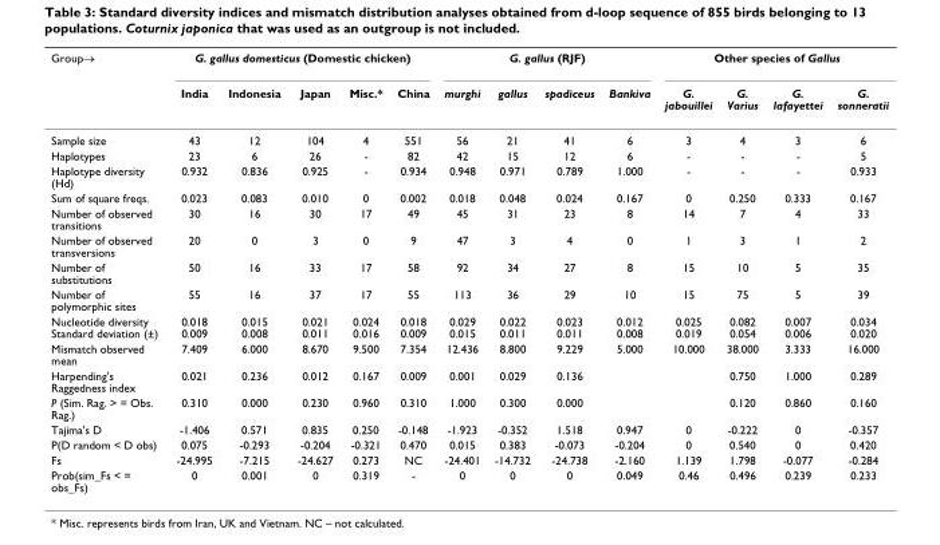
<table><thead><tr><td rowspan="2">Group→</td><td colspan="5">G. gallus domesticus (Domestic chicken)</td><td colspan="4">G. gallus (RJF)</td><td colspan="4">Other species of Gallus</td></tr><tr><td>India</td><td>Indonesia</td><td>Japan</td><td>Misc.*</td><td>China</td><td>murghi</td><td>gallus</td><td>spadiceus</td><td>Bankiva</td><td>G. jabouillei</td><td>G. Varius</td><td>G. lafayettei</td><td>G. sonneratii</td></tr></thead><tbody><tr><td>Sample size</td><td>43</td><td>12</td><td>104</td><td>4</td><td>551</td><td>56</td><td>21</td><td>41</td><td>6</td><td>3</td><td>4</td><td>3</td><td>6</td></tr><tr><td>Haplotypes</td><td>23</td><td>6</td><td>26</td><td>-</td><td>82</td><td>42</td><td>15</td><td>12</td><td>6</td><td>-</td><td>-</td><td>-</td><td>5</td></tr><tr><td>Haplotype diversity (Hd)</td><td>0.932</td><td>0.836</td><td>0.925</td><td>-</td><td>0.934</td><td>0.948</td><td>0.971</td><td>0.789</td><td>1.000</td><td>-</td><td>-</td><td>-</td><td>0.933</td></tr><tr><td>Sum of square freqs.</td><td>0.023</td><td>0.083</td><td>0.010</td><td>0</td><td>0.002</td><td>0.018</td><td>0.048</td><td>0.024</td><td>0.167</td><td>0</td><td>0.250</td><td>0.333</td><td>0.167</td></tr><tr><td>Number of observed transitions</td><td>30</td><td>16</td><td>30</td><td>17</td><td>49</td><td>45</td><td>31</td><td>23</td><td>8</td><td>14</td><td>7</td><td>4</td><td>33</td></tr><tr><td>Number of observed transversions</td><td>20</td><td>0</td><td>3</td><td>0</td><td>9</td><td>47</td><td>3</td><td>4</td><td>0</td><td>1</td><td>3</td><td>1</td><td>2</td></tr><tr><td>Number of substitutions</td><td>50</td><td>16</td><td>33</td><td>17</td><td>58</td><td>92</td><td>34</td><td>27</td><td>8</td><td>15</td><td>10</td><td>5</td><td>35</td></tr><tr><td>Number of polymorphic sites</td><td>55</td><td>16</td><td>37</td><td>17</td><td>55</td><td>113</td><td>36</td><td>29</td><td>10</td><td>15</td><td>75</td><td>5</td><td>39</td></tr><tr><td>Nucleotide diversity Standard deviation (±)</td><td>0.018 0.009</td><td>0.015 0.008</td><td>0.021 0.011</td><td>0.024 0.016</td><td>0.018 0.009</td><td>0.029 0.015</td><td>0.022 0.011</td><td>0.023 0.011</td><td>0.012 0.008</td><td>0.025 0.019</td><td>0.082 0.054</td><td>0.007 0.006</td><td>0.034 0.020</td></tr><tr><td>Mismatch observed mean</td><td>7.409</td><td>6.000</td><td>8.670</td><td>9.500</td><td>7.354</td><td>12.436</td><td>8.800</td><td>9.229</td><td>5.000</td><td>10.000</td><td>38.000</td><td>3.333</td><td>16.000</td></tr><tr><td>Harpending&#x27;s Raggedness index</td><td>0.021</td><td>0.236</td><td>0.012</td><td>0.167</td><td>0.009</td><td>0.001</td><td>0.029</td><td>0.136</td><td></td><td></td><td>0.750</td><td>1.000</td><td>0.289</td></tr><tr><td>P (Sim. Rag. &gt; = Obs. Rag.)</td><td>0.310</td><td>0.000</td><td>0.230</td><td>0.960</td><td>0.310</td><td>1.000</td><td>0.300</td><td>0.000</td><td></td><td></td><td>0.120</td><td>0.860</td><td>0.160</td></tr><tr><td>Tajima&#x27;s D</td><td>-1.406</td><td>0.571</td><td>0.835</td><td>0.250</td><td>-0.148</td><td>-1.923</td><td>-0.352</td><td>1.518</td><td>0.947</td><td>0</td><td>-0.222</td><td>0</td><td>-0.357</td></tr><tr><td>P(D random &lt; D obs)</td><td>0.075</td><td>-0.293</td><td>-0.204</td><td>-0.321</td><td>0.470</td><td>0.015</td><td>0.383</td><td>-0.073</td><td>-0.204</td><td>0</td><td>0.540</td><td>0</td><td>0.420</td></tr><tr><td>Fs</td><td>-24.995</td><td>-7.215</td><td>-24.627</td><td>0.273</td><td>NC</td><td>-24.401</td><td>-14.732</td><td>-24.738</td><td>-2.160</td><td>1.139</td><td>1.798</td><td>-0.077</td><td>-0.284</td></tr><tr><td>Prob(sim_Fs &lt; = obs_Fs)</td><td>0</td><td>0.001</td><td>0</td><td>0.319</td><td>-</td><td>0</td><td>0</td><td>0</td><td>0.049</td><td>0.46</td><td>0.496</td><td>0.239</td><td>0.233</td></tr></tbody></table>